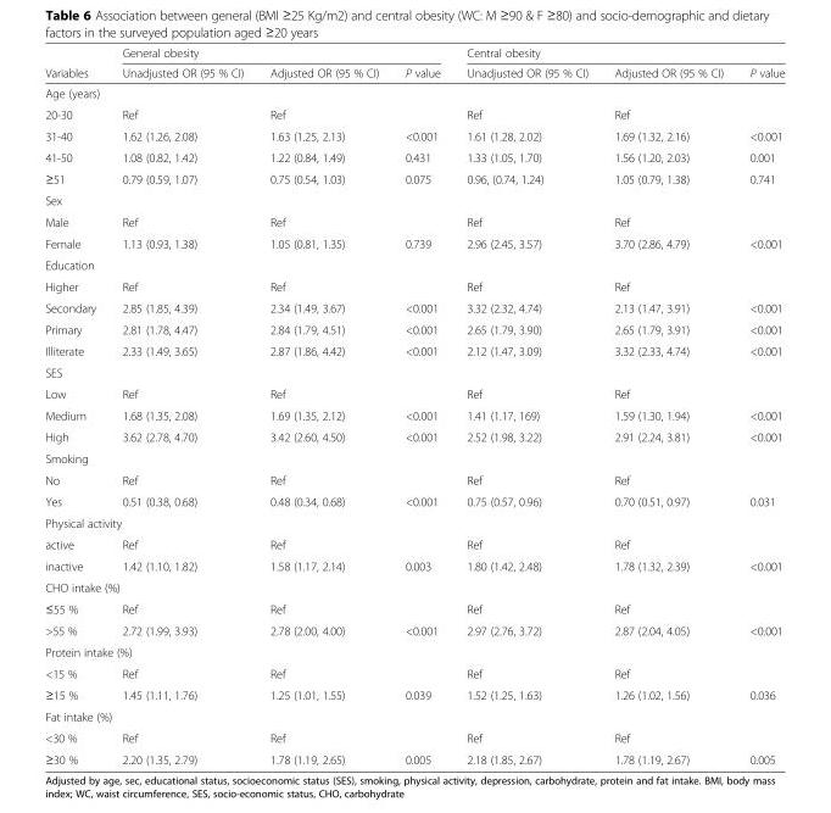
<table><thead><tr><td rowspan="2">Variables</td><td colspan="3">General obesity</td><td colspan="3">Central obesity</td></tr><tr><td>Unadjusted OR (95 % CI)</td><td>Adjusted OR (95 % CI)</td><td>P value</td><td>Unadjusted OR (95 % CI)</td><td>Adjusted OR (95 % CI)</td><td>P value</td></tr></thead><tbody><tr><td colspan="7">Age (years)</td></tr><tr><td>20-30</td><td>Ref</td><td>Ref</td><td></td><td>Ref</td><td>Ref</td><td></td></tr><tr><td>31-40</td><td>1.62 (1.26, 2.08)</td><td>1.63 (1.25, 2.13)</td><td>&lt;0.001</td><td>1.61 (1.28, 2.02)</td><td>1.69 (1.32, 2.16)</td><td>&lt;0.001</td></tr><tr><td>41-50</td><td>1.08 (0.82, 1.42)</td><td>1.22 (0.84, 1.49)</td><td>0.431</td><td>1.33 (1.05, 1.70)</td><td>1.56 (1.20, 2.03)</td><td>0.001</td></tr><tr><td>≥51</td><td>0.79 (0.59, 1.07)</td><td>0.75 (0.54, 1.03)</td><td>0.075</td><td>0.96, (0.74, 1.24)</td><td>1.05 (0.79, 1.38)</td><td>0.741</td></tr><tr><td colspan="7">Sex</td></tr><tr><td>Male</td><td>Ref</td><td>Ref</td><td></td><td>Ref</td><td>Ref</td><td></td></tr><tr><td>Female</td><td>1.13 (0.93, 1.38)</td><td>1.05 (0.81, 1.35)</td><td>0.739</td><td>2.96 (2.45, 3.57)</td><td>3.70 (2.86, 4.79)</td><td>&lt;0.001</td></tr><tr><td colspan="7">Education</td></tr><tr><td>Higher</td><td>Ref</td><td>Ref</td><td></td><td>Ref</td><td>Ref</td><td></td></tr><tr><td>Secondary</td><td>2.85 (1.85, 4.39)</td><td>2.34 (1.49, 3.67)</td><td>&lt;0.001</td><td>3.32 (2.32, 4.74)</td><td>2.13 (1.47, 3.91)</td><td>&lt;0.001</td></tr><tr><td>Primary</td><td>2.81 (1.78, 4.47)</td><td>2.84 (1.79, 4.51)</td><td>&lt;0.001</td><td>2.65 (1.79, 3.90)</td><td>2.65 (1.79, 3.91)</td><td>&lt;0.001</td></tr><tr><td>Illiterate</td><td>2.33 (1.49, 3.65)</td><td>2.87 (1.86, 4.42)</td><td>&lt;0.001</td><td>2.12 (1.47, 3.09)</td><td>3.32 (2.33, 4.74)</td><td>&lt;0.001</td></tr><tr><td colspan="7">SES</td></tr><tr><td>Low</td><td>Ref</td><td>Ref</td><td></td><td>Ref</td><td>Ref</td><td></td></tr><tr><td>Medium</td><td>1.68 (1.35, 2.08)</td><td>1.69 (1.35, 2.12)</td><td>&lt;0.001</td><td>1.41 (1.17, 169)</td><td>1.59 (1.30, 1.94)</td><td>&lt;0.001</td></tr><tr><td>High</td><td>3.62 (2.78, 4.70)</td><td>3.42 (2.60, 4.50)</td><td>&lt;0.001</td><td>2.52 (1.98, 3.22)</td><td>2.91 (2.24, 3.81)</td><td>&lt;0.001</td></tr><tr><td colspan="7">Smoking</td></tr><tr><td>No</td><td>Ref</td><td>Ref</td><td></td><td>Ref</td><td>Ref</td><td></td></tr><tr><td>Yes</td><td>0.51 (0.38, 0.68)</td><td>0.48 (0.34, 0.68)</td><td>&lt;0.001</td><td>0.75 (0.57, 0.96)</td><td>0.70 (0.51, 0.97)</td><td>0.031</td></tr><tr><td colspan="7">Physical activity</td></tr><tr><td>active</td><td>Ref</td><td>Ref</td><td></td><td>Ref</td><td>Ref</td><td></td></tr><tr><td>inactive</td><td>1.42 (1.10, 1.82)</td><td>1.58 (1.17, 2.14)</td><td>0.003</td><td>1.80 (1.42, 2.48)</td><td>1.78 (1.32, 2.39)</td><td>&lt;0.001</td></tr><tr><td colspan="7">CHO intake (%)</td></tr><tr><td>≤55 %</td><td>Ref</td><td>Ref</td><td></td><td>Ref</td><td>Ref</td><td></td></tr><tr><td>&gt;55 %</td><td>2.72 (1.99, 3.93)</td><td>2.78 (2.00, 4.00)</td><td>&lt;0.001</td><td>2.97 (2.76, 3.72)</td><td>2.87 (2.04, 4.05)</td><td>&lt;0.001</td></tr><tr><td colspan="7">Protein intake (%)</td></tr><tr><td>&lt;15 %</td><td>Ref</td><td>Ref</td><td></td><td>Ref</td><td>Ref</td><td></td></tr><tr><td>≥15 %</td><td>1.45 (1.11, 1.76)</td><td>1.25 (1.01, 1.55)</td><td>0.039</td><td>1.52 (1.25, 1.63)</td><td>1.26 (1.02, 1.56)</td><td>0.036</td></tr><tr><td colspan="7">Fat intake (%)</td></tr><tr><td>&lt;30 %</td><td>Ref</td><td>Ref</td><td></td><td>Ref</td><td>Ref</td><td></td></tr><tr><td>≥30 %</td><td>2.20 (1.35, 2.79)</td><td>1.78 (1.19, 2.65)</td><td>0.005</td><td>2.18 (1.85, 2.67)</td><td>1.78 (1.19, 2.67)</td><td>0.005</td></tr></tbody></table>